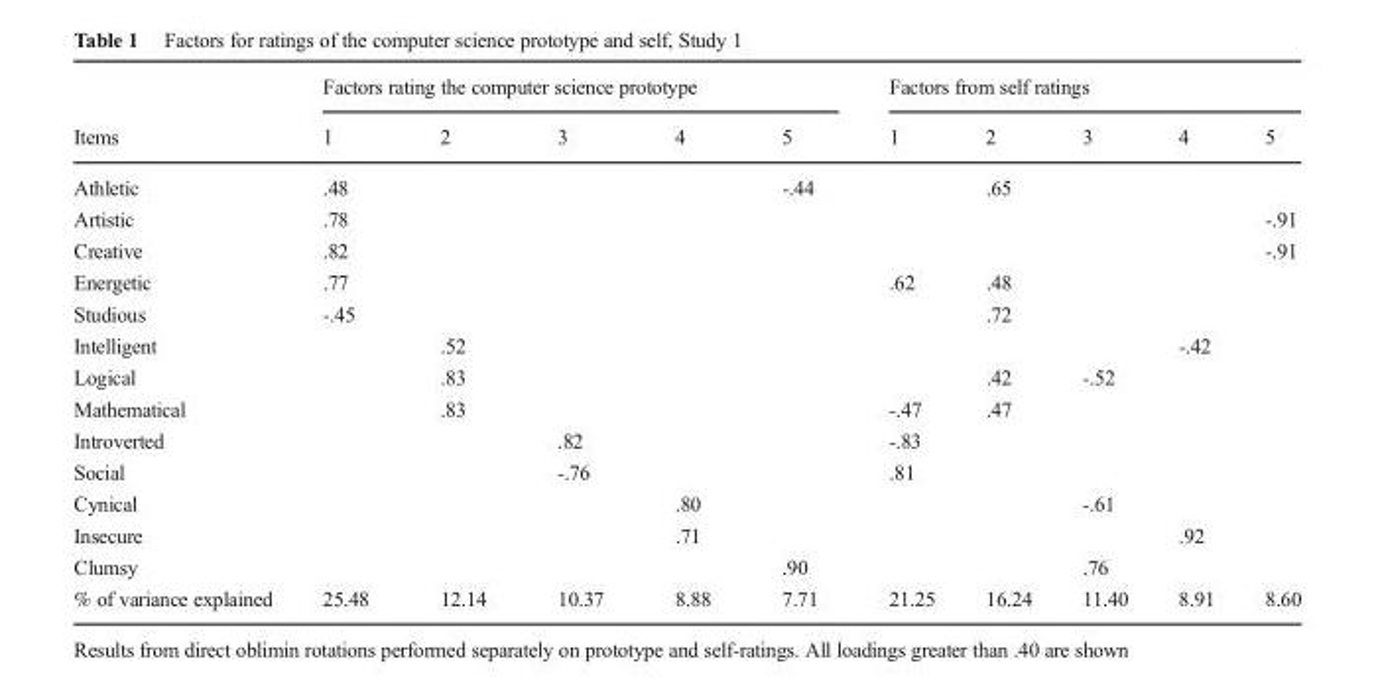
<table><thead><tr><td rowspan="2">Items</td><td colspan="5">Factors rating the computer science prototype</td><td colspan="5">Factors from self ratings</td></tr><tr><td>1</td><td>2</td><td>3</td><td>4</td><td>5</td><td>1</td><td>2</td><td>3</td><td>4</td><td>5</td></tr></thead><tbody><tr><td>Athletic</td><td>.48</td><td></td><td></td><td></td><td>-.44</td><td></td><td>.65</td><td></td><td></td><td></td></tr><tr><td>Artistic</td><td>.78</td><td></td><td></td><td></td><td></td><td></td><td></td><td></td><td></td><td>-.91</td></tr><tr><td>Creative</td><td>.82</td><td></td><td></td><td></td><td></td><td></td><td></td><td></td><td></td><td>-.91</td></tr><tr><td>Energetic</td><td>.77</td><td></td><td></td><td></td><td></td><td>.62</td><td>.48</td><td></td><td></td><td></td></tr><tr><td>Studious</td><td>-.45</td><td></td><td></td><td></td><td></td><td></td><td>.72</td><td></td><td></td><td></td></tr><tr><td>Intelligent</td><td></td><td>.52</td><td></td><td></td><td></td><td></td><td></td><td></td><td>-.42</td><td></td></tr><tr><td>Logical</td><td></td><td>.83</td><td></td><td></td><td></td><td></td><td>.42</td><td>-.52</td><td></td><td></td></tr><tr><td>Mathematical</td><td></td><td>.83</td><td></td><td></td><td></td><td>-.47</td><td>.47</td><td></td><td></td><td></td></tr><tr><td>Introverted</td><td></td><td></td><td>.82</td><td></td><td></td><td>-.83</td><td></td><td></td><td></td><td></td></tr><tr><td>Social</td><td></td><td></td><td>-.76</td><td></td><td></td><td>.81</td><td></td><td></td><td></td><td></td></tr><tr><td>Cynical</td><td></td><td></td><td></td><td>.80</td><td></td><td></td><td></td><td>-.61</td><td></td><td></td></tr><tr><td>Insecure</td><td></td><td></td><td></td><td>.71</td><td></td><td></td><td></td><td></td><td>.92</td><td></td></tr><tr><td>Clumsy</td><td></td><td></td><td></td><td></td><td>.90</td><td></td><td></td><td>.76</td><td></td><td></td></tr><tr><td>% of variance explained</td><td>25.48</td><td>12.14</td><td>10.37</td><td>8.88</td><td>7.71</td><td>21.25</td><td>16.24</td><td>11.40</td><td>8.91</td><td>8.60</td></tr></tbody></table>